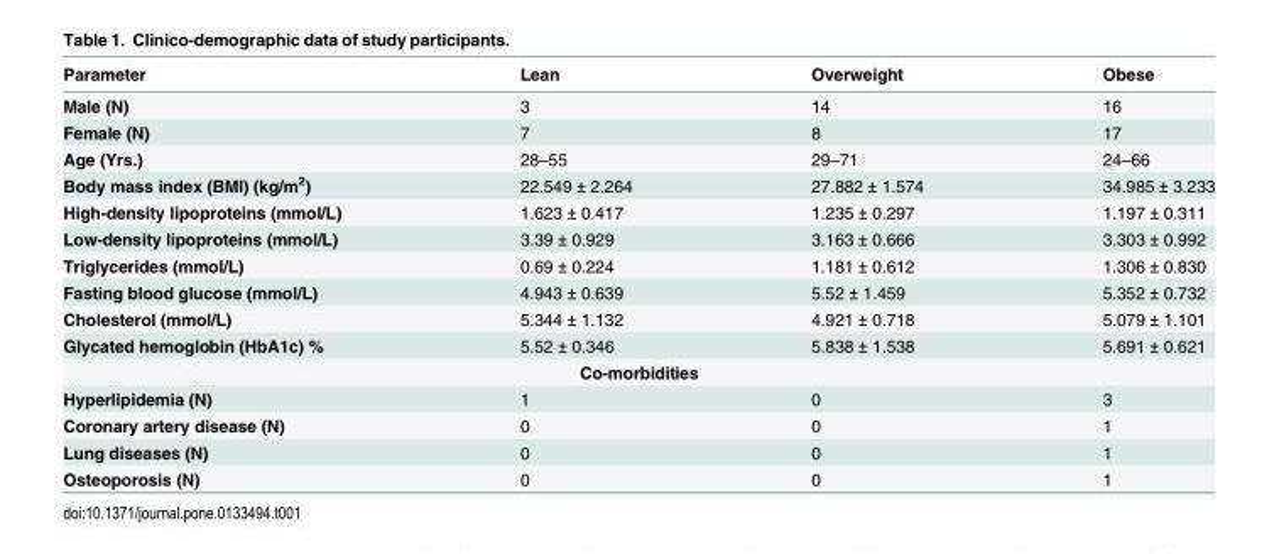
<table><thead><tr><td>Parameter</td><td>Lean</td><td>Overweight</td><td>Obese</td></tr></thead><tbody><tr><td>Male (N)</td><td>3</td><td>14</td><td>16</td></tr><tr><td>Female (N)</td><td>7</td><td>8</td><td>17</td></tr><tr><td>Age (Yrs.)</td><td>28–55</td><td>29–71</td><td>24–66</td></tr><tr><td>Body mass index (BMI) (kg/m<sup>2</sup>)</td><td>22.549 ± 2.264</td><td>27.882 ± 1.574</td><td>34.985 ± 3.233</td></tr><tr><td>High-density lipoproteins (mmol/L)</td><td>1.623 ± 0.417</td><td>1.235 ± 0.297</td><td>1.197 ± 0.311</td></tr><tr><td>Low-density lipoproteins (mmol/L)</td><td>3.39 ± 0.929</td><td>3.163 ± 0.666</td><td>3.303 ± 0.992</td></tr><tr><td>Triglycerides (mmol/L)</td><td>0.69 ± 0.224</td><td>1.181 ± 0.612</td><td>1.306 ± 0.830</td></tr><tr><td>Fasting blood glucose (mmol/L)</td><td>4.943 ± 0.639</td><td>5.52 ± 1.459</td><td>5.352 ± 0.732</td></tr><tr><td>Cholesterol (mmol/L)</td><td>5.344 ± 1.132</td><td>4.921 ± 0.718</td><td>5.079 ± 1.101</td></tr><tr><td>Glycated hemoglobin (HbA1c) %</td><td>5.52 ± 0.346</td><td>5.838 ± 1.538</td><td>5.691 ± 0.621</td></tr><tr><td colspan="4">Co-morbidities</td></tr><tr><td>Hyperlipidemia (N)</td><td>1</td><td>0</td><td>3</td></tr><tr><td>Coronary artery disease (N)</td><td>0</td><td>0</td><td>1</td></tr><tr><td>Lung diseases (N)</td><td>0</td><td>0</td><td>1</td></tr><tr><td>Osteoporosis (N)</td><td>0</td><td>0</td><td>1</td></tr></tbody></table>